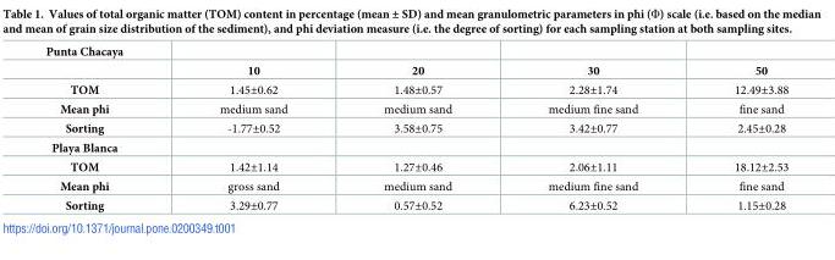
<table><thead><tr><td rowspan="2">Punta Chacaya</td><td rowspan="2">10</td><td rowspan="2">20</td><td rowspan="2">30</td><td rowspan="2">50</td></tr><tr></tr></thead><tbody><tr><td>TOM</td><td>1.45±0.62</td><td>1.48±0.57</td><td>2.28±1.74</td><td>12.49±3.88</td></tr><tr><td>Mean phi</td><td>medium sand</td><td>medium sand</td><td>medium fine sand</td><td>fine sand</td></tr><tr><td>Sorting</td><td>-1.77±0.52</td><td>3.58±0.75</td><td>3.42±0.77</td><td>2.45±0.28</td></tr><tr><td colspan="5">Playa Blanca</td></tr><tr><td>TOM</td><td>1.42±1.14</td><td>1.27±0.46</td><td>2.06±1.11</td><td>18.12±2.53</td></tr><tr><td>Mean phi</td><td>gross sand</td><td>medium sand</td><td>medium fine sand</td><td>fine sand</td></tr><tr><td>Sorting</td><td>3.29±0.77</td><td>0.57±0.52</td><td>6.23±0.52</td><td>1.15±0.28</td></tr></tbody></table>